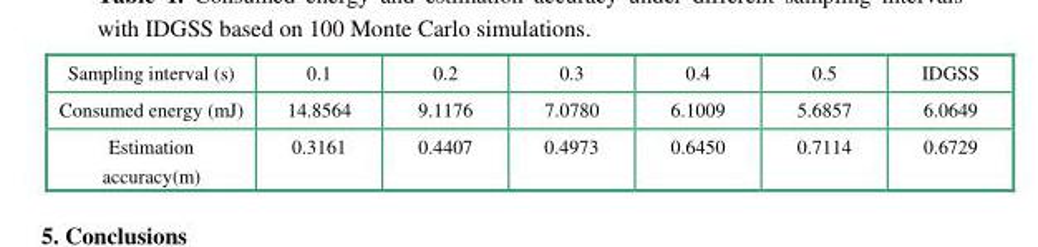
<table><tbody><tr><td>Sampling interval (s)</td><td>0.1</td><td>0.2</td><td>0.3</td><td>0.4</td><td>0.5</td><td>IDGSS</td></tr><tr><td>Consumed energy (mJ)</td><td>14.8564</td><td>9.1176</td><td>7.0780</td><td>6.1009</td><td>5.6857</td><td>6.0649</td></tr><tr><td>Estimation accuracy(m)</td><td>0.3161</td><td>0.4407</td><td>0.4973</td><td>0.6450</td><td>0.7114</td><td>0.6729</td></tr></tbody></table>